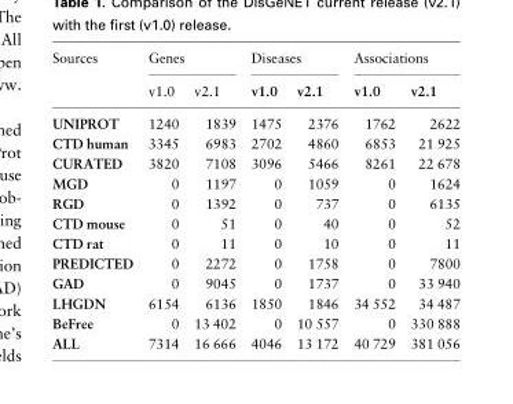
<table><thead><tr><td rowspan="2">Sources</td><td colspan="2">Genes</td><td colspan="2">Diseases</td><td colspan="2">Associations</td></tr><tr><td>v1.0</td><td>v2.1</td><td>v1.0</td><td>v2.1</td><td>v1.0</td><td>v2.1</td></tr></thead><tbody><tr><td>UNIPROT</td><td>1240</td><td>1839</td><td>1475</td><td>2376</td><td>1762</td><td>2622</td></tr><tr><td>CTD human</td><td>3345</td><td>6983</td><td>2702</td><td>4860</td><td>6853</td><td>21 925</td></tr><tr><td>CURATED</td><td>3820</td><td>7108</td><td>3096</td><td>5466</td><td>8261</td><td>22 678</td></tr><tr><td>MGD</td><td>0</td><td>1197</td><td>0</td><td>1059</td><td>0</td><td>1624</td></tr><tr><td>RGD</td><td>0</td><td>1392</td><td>0</td><td>737</td><td>0</td><td>6135</td></tr><tr><td>CTD mouse</td><td>0</td><td>51</td><td>0</td><td>40</td><td>0</td><td>52</td></tr><tr><td>CTD rat</td><td>0</td><td>11</td><td>0</td><td>10</td><td>0</td><td>11</td></tr><tr><td>PREDICTED</td><td>0</td><td>2272</td><td>0</td><td>1758</td><td>0</td><td>7800</td></tr><tr><td>GAD</td><td>0</td><td>9045</td><td>0</td><td>1737</td><td>0</td><td>33 940</td></tr><tr><td>LHGDN</td><td>6154</td><td>6136</td><td>1850</td><td>1846</td><td>34 552</td><td>34 487</td></tr><tr><td>BeFree</td><td>0</td><td>13 402</td><td>0</td><td>10 557</td><td>0</td><td>330 888</td></tr><tr><td>ALL</td><td>7314</td><td>16 666</td><td>4046</td><td>13 172</td><td>40 729</td><td>381 056</td></tr></tbody></table>